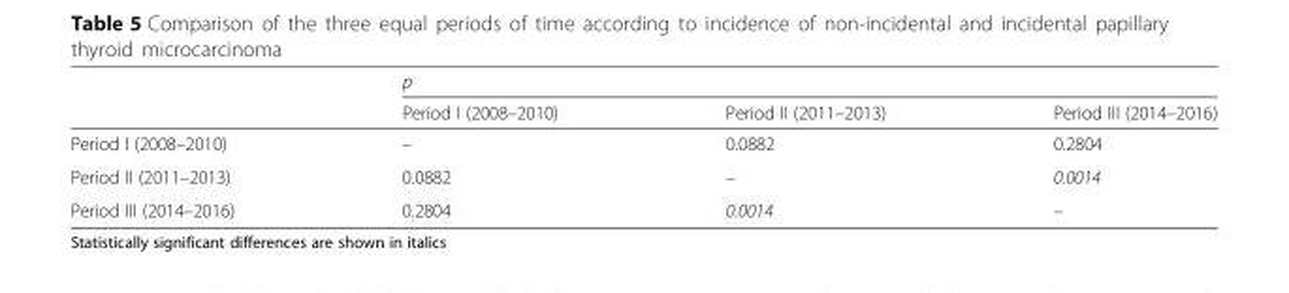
<table><thead><tr><td rowspan="2"></td><td colspan="3">p</td></tr><tr><td>Period I (2008–2010)</td><td>Period II (2011–2013)</td><td>Period III (2014–2016)</td></tr></thead><tbody><tr><td>Period I (2008–2010)</td><td>–</td><td>0.0882</td><td>0.2804</td></tr><tr><td>Period II (2011–2013)</td><td>0.0882</td><td>–</td><td>0.0014</td></tr><tr><td>Period III (2014–2016)</td><td>0.2804</td><td>0.0014</td><td>–</td></tr></tbody></table>